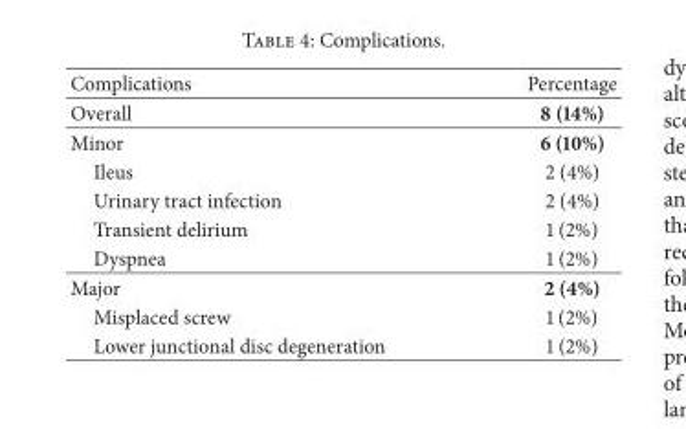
<table><thead><tr><td>Complications</td><td>Percentage</td></tr></thead><tbody><tr><td>Overall</td><td>8 (14%)</td></tr><tr><td>Minor</td><td>6 (10%)</td></tr><tr><td>Ileus</td><td>2 (4%)</td></tr><tr><td>Urinary tract infection</td><td>2 (4%)</td></tr><tr><td>Transient delirium</td><td>1 (2%)</td></tr><tr><td>Dyspnea</td><td>1 (2%)</td></tr><tr><td>Major</td><td>2 (4%)</td></tr><tr><td>Misplaced screw</td><td>1 (2%)</td></tr><tr><td>Lower junctional disc degeneration</td><td>1 (2%)</td></tr></tbody></table>